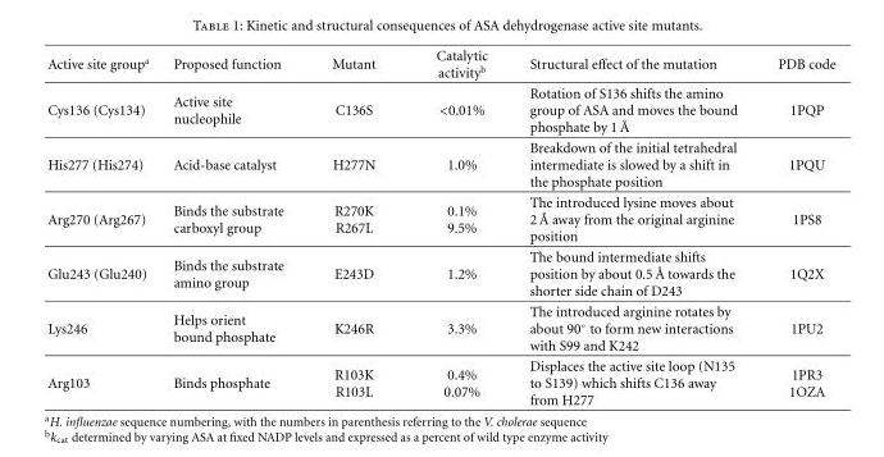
<table><thead><tr><td>Active site group<sup>a</sup></td><td>Proposed function</td><td>Mutant</td><td>Catalytic activity<sup>b</sup></td><td>Structural effect of the mutation</td><td>PDB code</td></tr></thead><tbody><tr><td>Cys136 (Cys134)</td><td>Active site nucleophile</td><td>C136S</td><td>&lt;0.01%</td><td>Rotation of S136 shifts the amino group of ASA and moves the bound phosphate by 1 ˚A</td><td>1PQP</td></tr><tr><td>His277 (His274)</td><td>Acid-base catalyst</td><td>H277N</td><td>1.0%</td><td>Breakdown of the initial tetrahedral intermediate is slowed by a shift in the phosphate position</td><td>1PQU</td></tr><tr><td>Arg270 (Arg267)</td><td>Binds the substrate carboxyl group</td><td>R270K R267L</td><td>0.1% 9.5%</td><td>The introduced lysine moves about 2 ˚A away from the original arginine position</td><td>1PS8</td></tr><tr><td>Glu243 (Glu240)</td><td>Binds the substrate amino group</td><td>E243D</td><td>1.2%</td><td>The bound intermediate shifts position by about 0.5 ˚A towards the shorter side chain of D243</td><td>1Q2X</td></tr><tr><td>Lys246</td><td>Helps orient bound phosphate</td><td>K246R</td><td>3.3%</td><td>The introduced arginine rotates by about 90◦ to form new interactions with S99 and K242</td><td>1PU2</td></tr><tr><td>Arg103</td><td>Binds phosphate</td><td>R103K R103L</td><td>0.4% 0.07%</td><td>Displaces the active site loop (N135 to S139) which shifts C136 away from H277</td><td>1PR3 1OZA</td></tr></tbody></table>